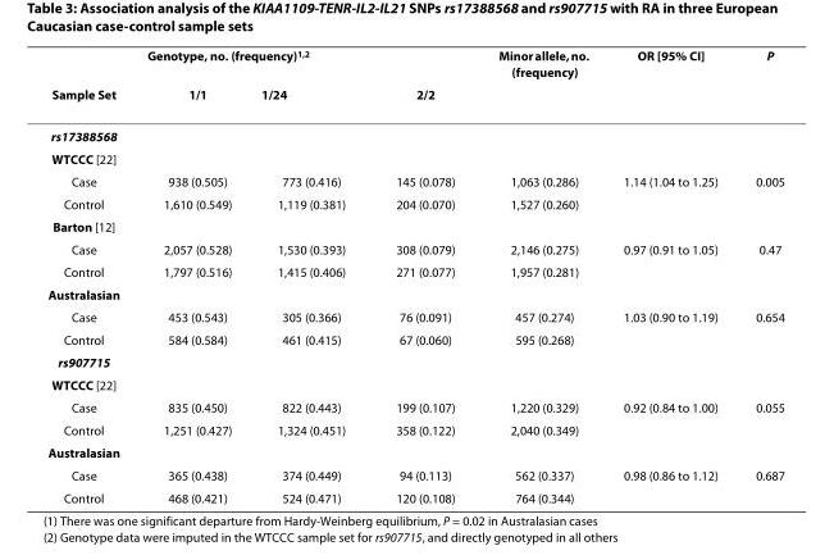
<table><thead><tr><td rowspan="2">Sample Set</td><td colspan="3">Genotype, no. (frequency)<sup>1,2</sup></td><td rowspan="2">Minor allele, no. (frequency)</td><td rowspan="2">OR [95% CI]</td><td rowspan="2">P</td></tr><tr><td>1/1</td><td>1/2<sup>4</sup></td><td>2/2</td></tr></thead><tbody><tr><td colspan="7">rs17388568</td></tr><tr><td colspan="7">WTCCC [22]</td></tr><tr><td>Case</td><td>938 (0.505)</td><td>773 (0.416)</td><td>145 (0.078)</td><td>1,063 (0.286)</td><td>1.14 (1.04 to 1.25)</td><td>0.005</td></tr><tr><td>Control</td><td>1,610 (0.549)</td><td>1,119 (0.381)</td><td>204 (0.070)</td><td>1,527 (0.260)</td><td></td><td></td></tr><tr><td colspan="7">Barton [12]</td></tr><tr><td>Case</td><td>2,057 (0.528)</td><td>1,530 (0.393)</td><td>308 (0.079)</td><td>2,146 (0.275)</td><td>0.97 (0.91 to 1.05)</td><td>0.47</td></tr><tr><td>Control</td><td>1,797 (0.516)</td><td>1,415 (0.406)</td><td>271 (0.077)</td><td>1,957 (0.281)</td><td></td><td></td></tr><tr><td colspan="7">Australasian</td></tr><tr><td>Case</td><td>453 (0.543)</td><td>305 (0.366)</td><td>76 (0.091)</td><td>457 (0.274)</td><td>1.03 (0.90 to 1.19)</td><td>0.654</td></tr><tr><td>Control</td><td>584 (0.584)</td><td>461 (0.415)</td><td>67 (0.060)</td><td>595 (0.268)</td><td></td><td></td></tr><tr><td colspan="7">rs907715</td></tr><tr><td colspan="7">WTCCC [22]</td></tr><tr><td>Case</td><td>835 (0.450)</td><td>822 (0.443)</td><td>199 (0.107)</td><td>1,220 (0.329)</td><td>0.92 (0.84 to 1.00)</td><td>0.055</td></tr><tr><td>Control</td><td>1,251 (0.427)</td><td>1,324 (0.451)</td><td>358 (0.122)</td><td>2,040 (0.349)</td><td></td><td></td></tr><tr><td colspan="7">Australasian</td></tr><tr><td>Case</td><td>365 (0.438)</td><td>374 (0.449)</td><td>94 (0.113)</td><td>562 (0.337)</td><td>0.98 (0.86 to 1.12)</td><td>0.687</td></tr><tr><td>Control</td><td>468 (0.421)</td><td>524 (0.471)</td><td>120 (0.108)</td><td>764 (0.344)</td><td></td><td></td></tr></tbody></table>